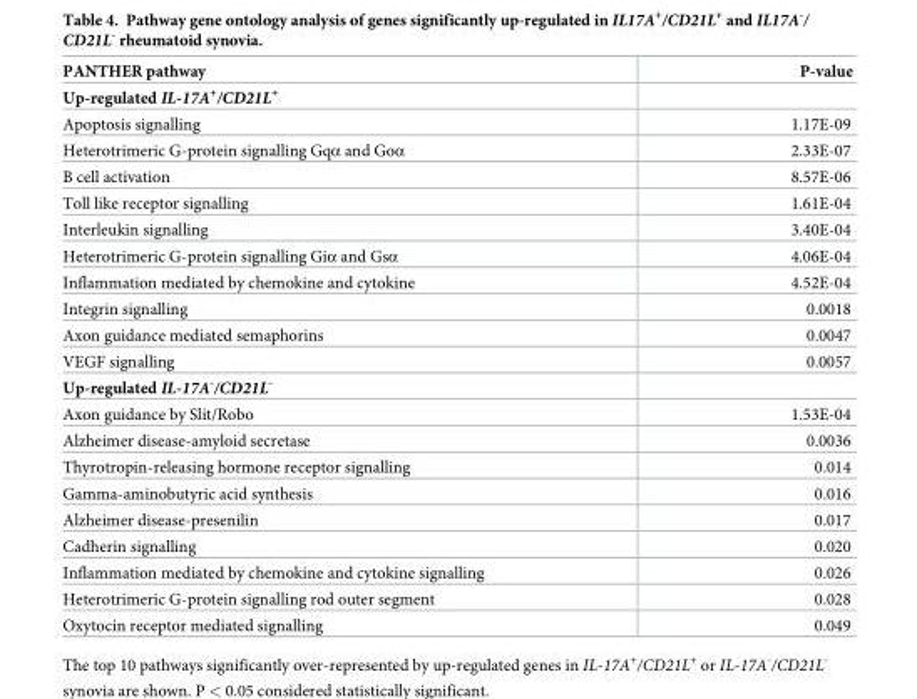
<table><thead><tr><td>PANTHER pathway</td><td>P-value</td></tr></thead><tbody><tr><td colspan="2">Up-regulated IL-17A<sup>+</sup>/CD21L<sup>+</sup></td></tr><tr><td>Apoptosis signalling</td><td>1.17E-09</td></tr><tr><td>Heterotrimeric G-protein signalling Gqα and Goα</td><td>2.33E-07</td></tr><tr><td>B cell activation</td><td>8.57E-06</td></tr><tr><td>Toll like receptor signalling</td><td>1.61E-04</td></tr><tr><td>Interleukin signalling</td><td>3.40E-04</td></tr><tr><td>Heterotrimeric G-protein signalling Giα and Gsα</td><td>4.06E-04</td></tr><tr><td>Inflammation mediated by chemokine and cytokine</td><td>4.52E-04</td></tr><tr><td>Integrin signalling</td><td>0.0018</td></tr><tr><td>Axon guidance mediated semaphorins</td><td>0.0047</td></tr><tr><td>VEGF signalling</td><td>0.0057</td></tr><tr><td colspan="2">Up-regulated IL-17A<sup>-</sup>/CD21L<sup>-</sup></td></tr><tr><td>Axon guidance by Slit/Robo</td><td>1.53E-04</td></tr><tr><td>Alzheimer disease-amyloid secretase</td><td>0.0036</td></tr><tr><td>Thyrotropin-releasing hormone receptor signalling</td><td>0.014</td></tr><tr><td>Gamma-aminobutyric acid synthesis</td><td>0.016</td></tr><tr><td>Alzheimer disease-presenilin</td><td>0.017</td></tr><tr><td>Cadherin signalling</td><td>0.020</td></tr><tr><td>Inflammation mediated by chemokine and cytokine signalling</td><td>0.026</td></tr><tr><td>Heterotrimeric G-protein signalling rod outer segment</td><td>0.028</td></tr><tr><td>Oxytocin receptor mediated signalling</td><td>0.049</td></tr></tbody></table>